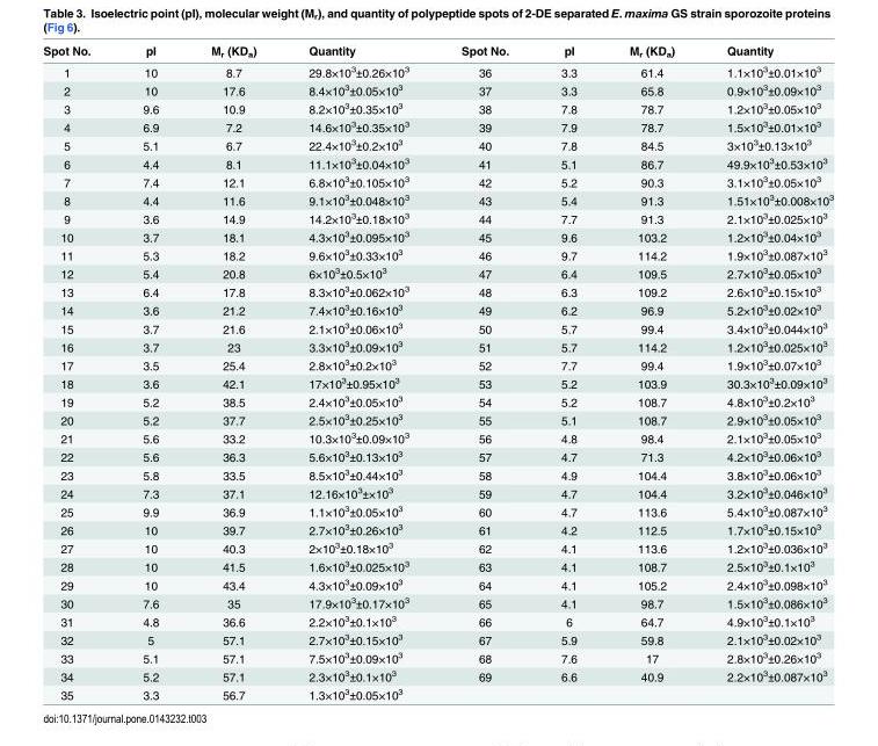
<table><thead><tr><td>Spot No.</td><td>pI</td><td>M<sub>r</sub> (KD<sub>a</sub>)</td><td>Quantity</td><td>Spot No.</td><td>pI</td><td>M<sub>r</sub> (KD<sub>a</sub>)</td><td>Quantity</td></tr></thead><tbody><tr><td>1</td><td>10</td><td>8.7</td><td>29.8×10<sup>3</sup>±0.26×10<sup>3</sup></td><td>36</td><td>3.3</td><td>61.4</td><td>1.1×10<sup>3</sup>±0.01×10<sup>3</sup></td></tr><tr><td>2</td><td>10</td><td>17.6</td><td>8.4×10<sup>3</sup>±0.05×10<sup>3</sup></td><td>37</td><td>3.3</td><td>65.8</td><td>0.9×10<sup>3</sup>±0.09×10<sup>3</sup></td></tr><tr><td>3</td><td>9.6</td><td>10.9</td><td>8.2×10<sup>3</sup>±0.35×10<sup>3</sup></td><td>38</td><td>7.8</td><td>78.7</td><td>1.2×10<sup>3</sup>±0.05×10<sup>3</sup></td></tr><tr><td>4</td><td>6.9</td><td>7.2</td><td>14.6×10<sup>3</sup>±0.35×10<sup>3</sup></td><td>39</td><td>7.9</td><td>78.7</td><td>1.5×10<sup>3</sup>±0.01×10<sup>3</sup></td></tr><tr><td>5</td><td>5.1</td><td>6.7</td><td>22.4×10<sup>3</sup>±0.2×10<sup>3</sup></td><td>40</td><td>7.8</td><td>84.5</td><td>3×10<sup>3</sup>±0.13×10<sup>3</sup></td></tr><tr><td>6</td><td>4.4</td><td>8.1</td><td>11.1×10<sup>3</sup>±0.04×10<sup>3</sup></td><td>41</td><td>5.1</td><td>86.7</td><td>49.9×10<sup>3</sup>±0.53×10<sup>3</sup></td></tr><tr><td>7</td><td>7.4</td><td>12.1</td><td>6.8×10<sup>3</sup>±0.105×10<sup>3</sup></td><td>42</td><td>5.2</td><td>90.3</td><td>3.1×10<sup>3</sup>±0.05×10<sup>3</sup></td></tr><tr><td>8</td><td>4.4</td><td>11.6</td><td>9.1×10<sup>3</sup>±0.048×10<sup>3</sup></td><td>43</td><td>5.4</td><td>91.3</td><td>1.51×10<sup>3</sup>±0.008×10<sup>3</sup></td></tr><tr><td>9</td><td>3.6</td><td>14.9</td><td>14.2×10<sup>3</sup>±0.18×10<sup>3</sup></td><td>44</td><td>7.7</td><td>91.3</td><td>2.1×10<sup>3</sup>±0.025×10<sup>3</sup></td></tr><tr><td>10</td><td>3.7</td><td>18.1</td><td>4.3×10<sup>3</sup>±0.095×10<sup>3</sup></td><td>45</td><td>9.6</td><td>103.2</td><td>1.2×10<sup>3</sup>±0.04×10<sup>3</sup></td></tr><tr><td>11</td><td>5.3</td><td>18.2</td><td>9.6×10<sup>3</sup>±0.33×10<sup>3</sup></td><td>46</td><td>9.7</td><td>114.2</td><td>1.9×10<sup>3</sup>±0.087×10<sup>3</sup></td></tr><tr><td>12</td><td>5.4</td><td>20.8</td><td>6×10<sup>3</sup>±0.5×10<sup>3</sup></td><td>47</td><td>6.4</td><td>109.5</td><td>2.7×10<sup>3</sup>±0.05×10<sup>3</sup></td></tr><tr><td>13</td><td>6.4</td><td>17.8</td><td>8.3×10<sup>3</sup>±0.062×10<sup>3</sup></td><td>48</td><td>6.3</td><td>109.2</td><td>2.6×10<sup>3</sup>±0.15×10<sup>3</sup></td></tr><tr><td>14</td><td>3.6</td><td>21.2</td><td>7.4×10<sup>3</sup>±0.16×10<sup>3</sup></td><td>49</td><td>6.2</td><td>96.9</td><td>5.2×10<sup>3</sup>±0.02×10<sup>3</sup></td></tr><tr><td>15</td><td>3.7</td><td>21.6</td><td>2.1×10<sup>3</sup>±0.06×10<sup>3</sup></td><td>50</td><td>5.7</td><td>99.4</td><td>3.4×10<sup>3</sup>±0.044×10<sup>3</sup></td></tr><tr><td>16</td><td>3.7</td><td>23</td><td>3.3×10<sup>3</sup>±0.09×10<sup>3</sup></td><td>51</td><td>5.7</td><td>114.2</td><td>1.2×10<sup>3</sup>±0.025×10<sup>3</sup></td></tr><tr><td>17</td><td>3.5</td><td>25.4</td><td>2.8×10<sup>3</sup>±0.2×10<sup>3</sup></td><td>52</td><td>7.7</td><td>99.4</td><td>1.9×10<sup>3</sup>±0.07×10<sup>3</sup></td></tr><tr><td>18</td><td>3.6</td><td>42.1</td><td>17×10<sup>3</sup>±0.95×10<sup>3</sup></td><td>53</td><td>5.2</td><td>103.9</td><td>30.3×10<sup>3</sup>±0.09×10<sup>3</sup></td></tr><tr><td>19</td><td>5.2</td><td>38.5</td><td>2.4×10<sup>3</sup>±0.05×10<sup>3</sup></td><td>54</td><td>5.2</td><td>108.7</td><td>4.8×10<sup>3</sup>±0.2×10<sup>3</sup></td></tr><tr><td>20</td><td>5.2</td><td>37.7</td><td>2.5×10<sup>3</sup>±0.25×10<sup>3</sup></td><td>55</td><td>5.1</td><td>108.7</td><td>2.9×10<sup>3</sup>±0.05×10<sup>3</sup></td></tr><tr><td>21</td><td>5.6</td><td>33.2</td><td>10.3×10<sup>3</sup>±0.09×10<sup>3</sup></td><td>56</td><td>4.8</td><td>98.4</td><td>2.1×10<sup>3</sup>±0.05×10<sup>3</sup></td></tr><tr><td>22</td><td>5.6</td><td>36.3</td><td>5.6×10<sup>3</sup>±0.13×10<sup>3</sup></td><td>57</td><td>4.7</td><td>71.3</td><td>4.2×10<sup>3</sup>±0.06×10<sup>3</sup></td></tr><tr><td>23</td><td>5.8</td><td>33.5</td><td>8.5×10<sup>3</sup>±0.44×10<sup>3</sup></td><td>58</td><td>4.9</td><td>104.4</td><td>3.8×10<sup>3</sup>±0.06×10<sup>3</sup></td></tr><tr><td>24</td><td>7.3</td><td>37.1</td><td>12.16×10<sup>3</sup>±×10<sup>3</sup></td><td>59</td><td>4.7</td><td>104.4</td><td>3.2×10<sup>3</sup>±0.046×10<sup>3</sup></td></tr><tr><td>25</td><td>9.9</td><td>36.9</td><td>1.1×10<sup>3</sup>±0.05×10<sup>3</sup></td><td>60</td><td>4.7</td><td>113.6</td><td>5.4×10<sup>3</sup>±0.087×10<sup>3</sup></td></tr><tr><td>26</td><td>10</td><td>39.7</td><td>2.7×10<sup>3</sup>±0.26×10<sup>3</sup></td><td>61</td><td>4.2</td><td>112.5</td><td>1.7×10<sup>3</sup>±0.15×10<sup>3</sup></td></tr><tr><td>27</td><td>10</td><td>40.3</td><td>2×10<sup>3</sup>±0.18×10<sup>3</sup></td><td>62</td><td>4.1</td><td>113.6</td><td>1.2×10<sup>3</sup>±0.036×10<sup>3</sup></td></tr><tr><td>28</td><td>10</td><td>41.5</td><td>1.6×10<sup>3</sup>±0.025×10<sup>3</sup></td><td>63</td><td>4.1</td><td>108.7</td><td>2.5×10<sup>3</sup>±0.1×10<sup>3</sup></td></tr><tr><td>29</td><td>10</td><td>43.4</td><td>4.3×10<sup>3</sup>±0.09×10<sup>3</sup></td><td>64</td><td>4.1</td><td>105.2</td><td>2.4×10<sup>3</sup>±0.098×10<sup>3</sup></td></tr><tr><td>30</td><td>7.6</td><td>35</td><td>17.9×10<sup>3</sup>±0.17×10<sup>3</sup></td><td>65</td><td>4.1</td><td>98.7</td><td>1.5×10<sup>3</sup>±0.086×10<sup>3</sup></td></tr><tr><td>31</td><td>4.8</td><td>36.6</td><td>2.2×10<sup>3</sup>±0.1×10<sup>3</sup></td><td>66</td><td>6</td><td>64.7</td><td>4.9×10<sup>3</sup>±0.1×10<sup>3</sup></td></tr><tr><td>32</td><td>5</td><td>57.1</td><td>2.7×10<sup>3</sup>±0.15×10<sup>3</sup></td><td>67</td><td>5.9</td><td>59.8</td><td>2.1×10<sup>3</sup>±0.02×10<sup>3</sup></td></tr><tr><td>33</td><td>5.1</td><td>57.1</td><td>7.5×10<sup>3</sup>±0.09×10<sup>3</sup></td><td>68</td><td>7.6</td><td>17</td><td>2.8×10<sup>3</sup>±0.26×10<sup>3</sup></td></tr><tr><td>34</td><td>5.2</td><td>57.1</td><td>2.3×10<sup>3</sup>±0.1×10<sup>3</sup></td><td>69</td><td>6.6</td><td>40.9</td><td>2.2×10<sup>3</sup>±0.087×10<sup>3</sup></td></tr><tr><td>35</td><td>3.3</td><td>56.7</td><td>1.3×10<sup>3</sup>±0.05×10<sup>3</sup></td><td></td><td></td><td></td><td></td></tr></tbody></table>